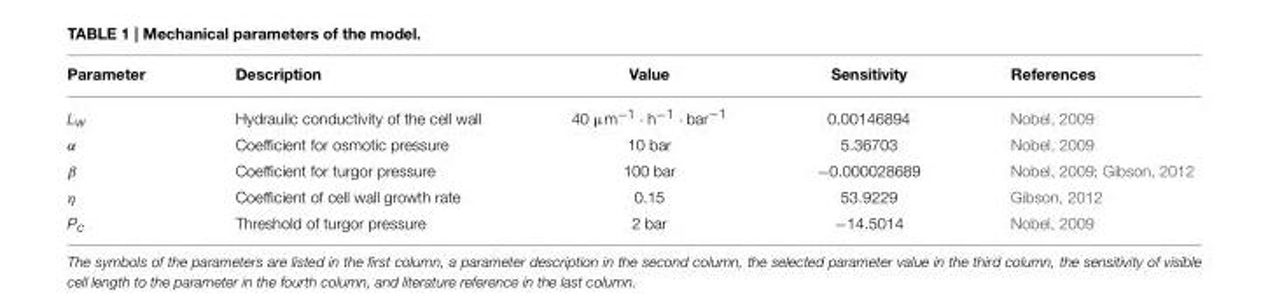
<table><thead><tr><td>Parameter</td><td>Description</td><td>Value</td><td>Sensitivity</td><td>References</td></tr></thead><tbody><tr><td>L<sub>w</sub></td><td>Hydraulic conductivity of the cell wall</td><td>40 µm<sup>−1</sup> · h<sup>−1</sup> · bar<sup>−1</sup></td><td>0.00146894</td><td>Nobel, 2009</td></tr><tr><td>α</td><td>Coefficient for osmotic pressure</td><td>10 bar</td><td>5.36703</td><td>Nobel, 2009</td></tr><tr><td>β</td><td>Coefficient for turgor pressure</td><td>100 bar</td><td>−0.000028689</td><td>Nobel, 2009; Gibson, 2012</td></tr><tr><td>η</td><td>Coefficient of cell wall growth rate</td><td>0.15</td><td>53.9229</td><td>Gibson, 2012</td></tr><tr><td>P<sub>c</sub></td><td>Threshold of turgor pressure</td><td>2 bar</td><td>−14.5014</td><td>Nobel, 2009</td></tr></tbody></table>